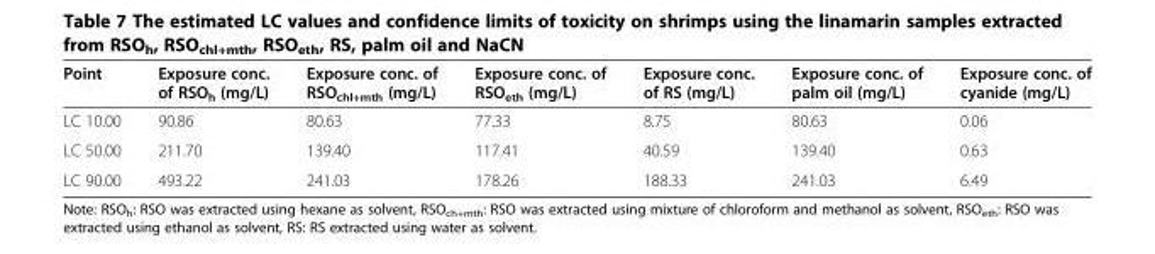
<table><thead><tr><td>Point</td><td>Exposure conc. of RSO<sub>h</sub> (mg/L)</td><td>Exposure conc. of RSO<sub>chl+mth</sub> (mg/L)</td><td>Exposure conc. of RSO<sub>eth</sub> (mg/L)</td><td>Exposure conc. of RS (mg/L)</td><td>Exposure conc. of palm oil (mg/L)</td><td>Exposure conc. of cyanide (mg/L)</td></tr></thead><tbody><tr><td>LC 10.00</td><td>90.86</td><td>80.63</td><td>77.33</td><td>8.75</td><td>80.63</td><td>0.06</td></tr><tr><td>LC 50.00</td><td>211.70</td><td>139.40</td><td>117.41</td><td>40.59</td><td>139.40</td><td>0.63</td></tr><tr><td>LC 90.00</td><td>493.22</td><td>241.03</td><td>178.26</td><td>188.33</td><td>241.03</td><td>6.49</td></tr></tbody></table>